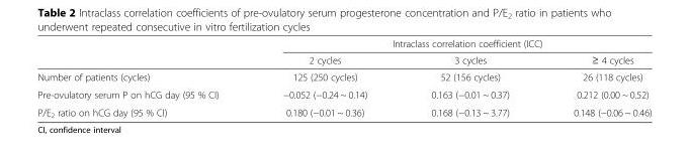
<table><thead><tr><td rowspan="2"></td><td colspan="3">Intraclass correlation coefficient (ICC)</td></tr><tr><td>2 cycles</td><td>3 cycles</td><td>≥ 4 cycles</td></tr></thead><tbody><tr><td>Number of patients (cycles)</td><td>125 (250 cycles)</td><td>52 (156 cycles)</td><td>26 (118 cycles)</td></tr><tr><td>Pre-ovulatory serum P on hCG day (95 % CI)</td><td>−0.052 (−0.24 ~ 0.14)</td><td>0.163 (−0.01 ~ 0.37)</td><td>0.212 (0.00 ~ 0.52)</td></tr><tr><td>P/E<sub>2</sub> ratio on hCG day (95 % CI)</td><td>0.180 (−0.01 ~ 0.36)</td><td>0.168 (−0.13 ~ 3.77)</td><td>0.148 (−0.06 ~ 0.46)</td></tr></tbody></table>